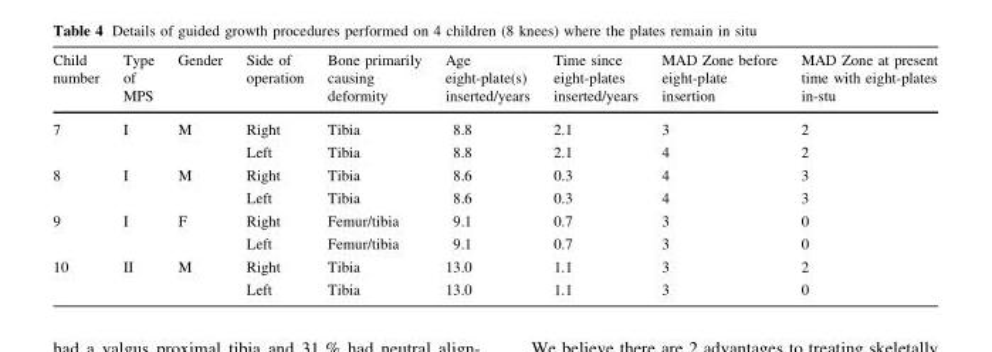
<table><thead><tr><td>Child number</td><td>Type of MPS</td><td>Gender</td><td>Side of operation</td><td>Bone primarily causing deformity</td><td>Age eight-plate(s) inserted/years</td><td>Time since eight-plates inserted/years</td><td>MAD Zone before eight-plate insertion</td><td>MAD Zone at present time with eight-plates in-stu</td></tr></thead><tbody><tr><td rowspan="2">7</td><td rowspan="2">I</td><td rowspan="2">M</td><td>Right</td><td>Tibia</td><td>8.8</td><td>2.1</td><td>3</td><td>2</td></tr><tr><td>Left</td><td>Tibia</td><td>8.8</td><td>2.1</td><td>4</td><td>2</td></tr><tr><td rowspan="2">8</td><td rowspan="2">I</td><td rowspan="2">M</td><td>Right</td><td>Tibia</td><td>8.6</td><td>0.3</td><td>4</td><td>3</td></tr><tr><td>Left</td><td>Tibia</td><td>8.6</td><td>0.3</td><td>4</td><td>3</td></tr><tr><td rowspan="2">9</td><td rowspan="2">I</td><td rowspan="2">F</td><td>Right</td><td>Femur/tibia</td><td>9.1</td><td>0.7</td><td>3</td><td>0</td></tr><tr><td>Left</td><td>Femur/tibia</td><td>9.1</td><td>0.7</td><td>3</td><td>0</td></tr><tr><td rowspan="2">10</td><td rowspan="2">II</td><td rowspan="2">M</td><td>Right</td><td>Tibia</td><td>13.0</td><td>1.1</td><td>3</td><td>2</td></tr><tr><td>Left</td><td>Tibia</td><td>13.0</td><td>1.1</td><td>3</td><td>0</td></tr></tbody></table>